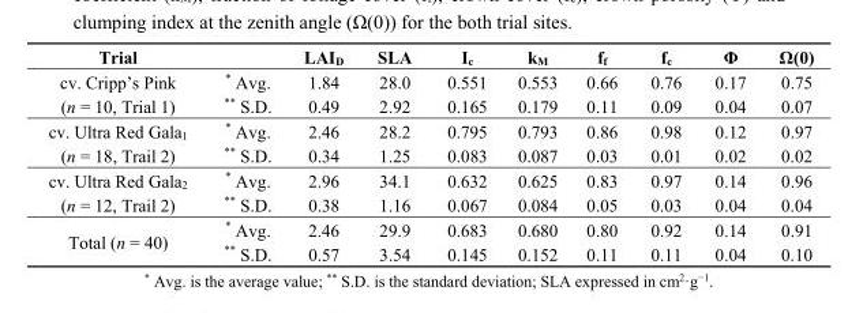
<table><thead><tr><td>Trial</td><td></td><td>LAI<sub>D</sub></td><td>SLA</td><td>I<sub>c</sub></td><td>k<sub>M</sub></td><td>f<sub>f</sub></td><td>f<sub>c</sub></td><td>Φ</td><td>Ω(0)</td></tr></thead><tbody><tr><td rowspan="2">cv. Cripp’s Pink (n = 10, Trial 1)</td><td>* Avg.</td><td>1.84</td><td>28.0</td><td>0.551</td><td>0.553</td><td>0.66</td><td>0.76</td><td>0.17</td><td>0.75</td></tr><tr><td>** S.D.</td><td>0.49</td><td>2.92</td><td>0.165</td><td>0.179</td><td>0.11</td><td>0.09</td><td>0.04</td><td>0.07</td></tr><tr><td rowspan="2">cv. Ultra Red Gala<sub>1</sub> (n = 18, Trail 2)</td><td>* Avg.</td><td>2.46</td><td>28.2</td><td>0.795</td><td>0.793</td><td>0.86</td><td>0.98</td><td>0.12</td><td>0.97</td></tr><tr><td>** S.D.</td><td>0.34</td><td>1.25</td><td>0.083</td><td>0.087</td><td>0.03</td><td>0.01</td><td>0.02</td><td>0.02</td></tr><tr><td rowspan="2">cv. Ultra Red Gala<sub>2</sub> (n = 12, Trail 2)</td><td>* Avg.</td><td>2.96</td><td>34.1</td><td>0.632</td><td>0.625</td><td>0.83</td><td>0.97</td><td>0.14</td><td>0.96</td></tr><tr><td>** S.D.</td><td>0.38</td><td>1.16</td><td>0.067</td><td>0.084</td><td>0.05</td><td>0.03</td><td>0.04</td><td>0.04</td></tr><tr><td rowspan="2">Total (n = 40)</td><td>* Avg.</td><td>2.46</td><td>29.9</td><td>0.683</td><td>0.680</td><td>0.80</td><td>0.92</td><td>0.14</td><td>0.91</td></tr><tr><td>** S.D.</td><td>0.57</td><td>3.54</td><td>0.145</td><td>0.152</td><td>0.11</td><td>0.11</td><td>0.04</td><td>0.10</td></tr></tbody></table>